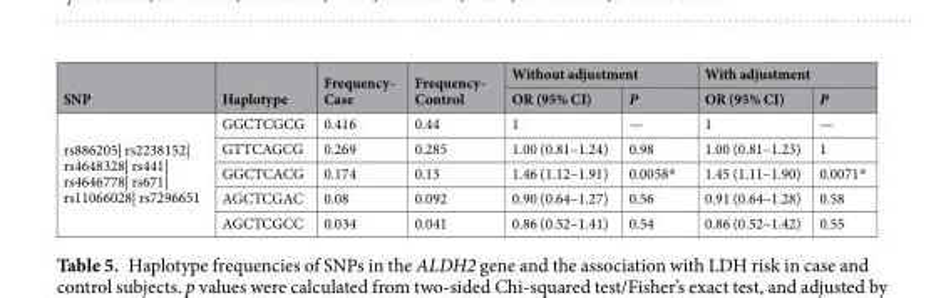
<table><thead><tr><td rowspan="2">SNP</td><td rowspan="2">Haplotype</td><td rowspan="2">Frequency- Case</td><td rowspan="2">Frequency- Control</td><td colspan="2">Without adjustment</td><td colspan="2">With adjustment</td></tr><tr><td>OR (95% CI)</td><td>P</td><td>OR (95% CI)</td><td>P</td></tr></thead><tbody><tr><td rowspan="5">rs886205| rs2238152| rs4648328| rs441| rs4646778| rs671| rs11066028| rs7296651</td><td>GGCTCGCG</td><td>0.416</td><td>0.44</td><td>1</td><td>—</td><td>1</td><td>—</td></tr><tr><td>GTTCAGCG</td><td>0.269</td><td>0.285</td><td>1.00 (0.81–1.24)</td><td>0.98</td><td>1.00 (0.81–1.23)</td><td>1</td></tr><tr><td>GGCTCACG</td><td>0.174</td><td>0.13</td><td>1.46 (1.12–1.91)</td><td>0.0058*</td><td>1.45 (1.11–1.90)</td><td>0.0071*</td></tr><tr><td>AGCTCGAC</td><td>0.08</td><td>0.092</td><td>0.90 (0.64–1.27)</td><td>0.56</td><td>0.91 (0.64–1.28)</td><td>0.58</td></tr><tr><td>AGCTCGCC</td><td>0.034</td><td>0.041</td><td>0.86 (0.52–1.41)</td><td>0.54</td><td>0.86 (0.52–1.42)</td><td>0.55</td></tr></tbody></table>